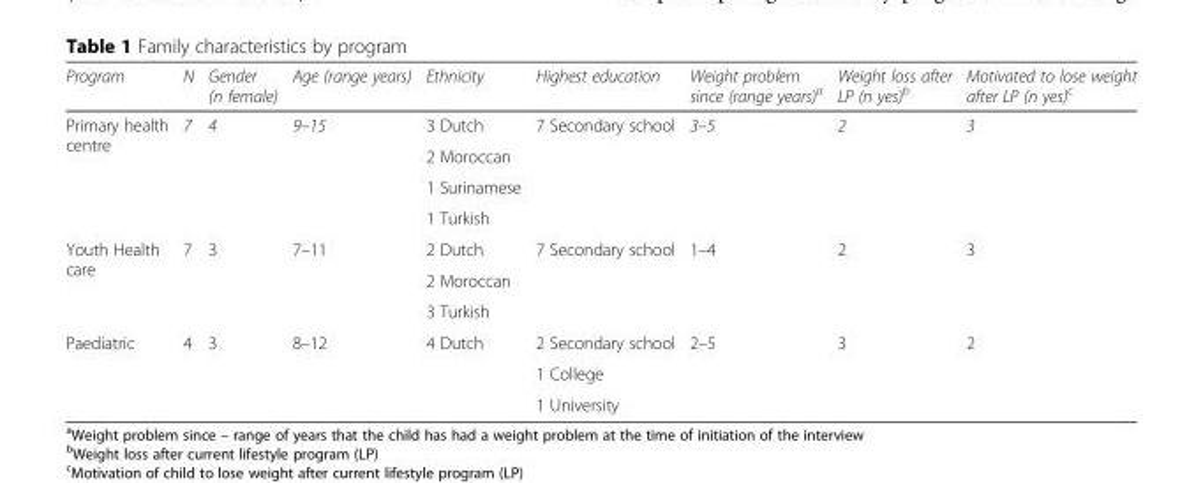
<table><thead><tr><td>Program</td><td>N</td><td>Gender (n female)</td><td>Age (range years)</td><td>Ethnicity</td><td>Highest education</td><td>Weight problem since (range years)<sup>a</sup></td><td>Weight loss after LP (n yes)<sup>b</sup></td><td>Motivated to lose weight after LP (n yes)<sup>c</sup></td></tr></thead><tbody><tr><td rowspan="4">Primary health centre</td><td rowspan="4">7</td><td rowspan="4">4</td><td rowspan="4">9–15</td><td>3 Dutch</td><td rowspan="4">7 Secondary school</td><td rowspan="4">3–5</td><td rowspan="4">2</td><td rowspan="4">3</td></tr><tr><td>2 Moroccan</td></tr><tr><td>1 Surinamese</td></tr><tr><td>1 Turkish</td></tr><tr><td rowspan="3">Youth Health care</td><td rowspan="3">7</td><td rowspan="3">3</td><td rowspan="3">7–11</td><td>2 Dutch</td><td rowspan="3">7 Secondary school</td><td rowspan="3">1–4</td><td rowspan="3">2</td><td rowspan="3">3</td></tr><tr><td>2 Moroccan</td></tr><tr><td>3 Turkish</td></tr><tr><td rowspan="3">Paediatric</td><td rowspan="3">4</td><td rowspan="3">3</td><td rowspan="3">8–12</td><td rowspan="3">4 Dutch</td><td>2 Secondary school</td><td rowspan="3">2–5</td><td rowspan="3">3</td><td rowspan="3">2</td></tr><tr><td>1 College</td></tr><tr><td>1 University</td></tr></tbody></table>